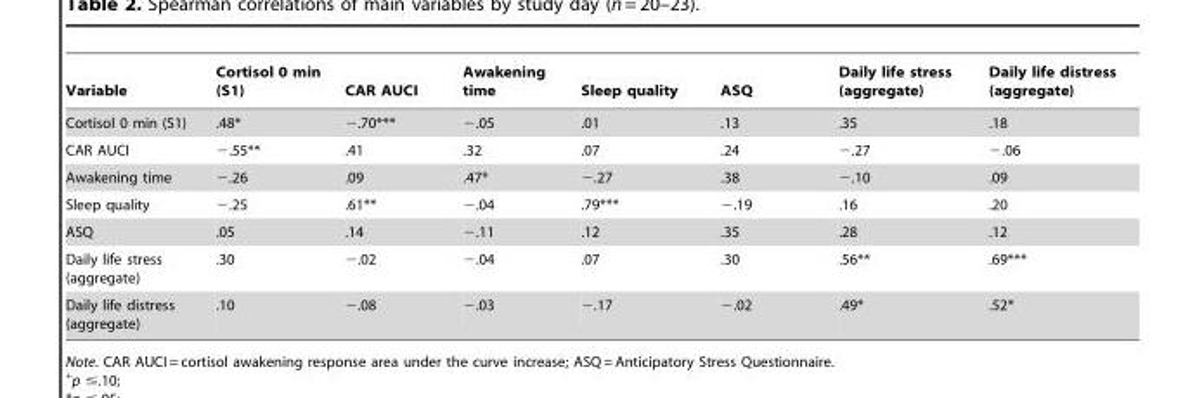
<table><thead><tr><td>Variable</td><td>Cortisol 0 min (S1)</td><td>CAR AUCI</td><td>Awakening time</td><td>Sleep quality</td><td>ASQ</td><td>Daily life stress (aggregate)</td><td>Daily life distress (aggregate)</td></tr></thead><tbody><tr><td>Cortisol 0 min (S1)</td><td>.48*</td><td>−.70***</td><td>−.05</td><td>.01</td><td>.13</td><td>.35</td><td>.18</td></tr><tr><td>CAR AUCI</td><td>−.55**</td><td>.41</td><td>.32</td><td>.07</td><td>.24</td><td>−.27</td><td>−.06</td></tr><tr><td>Awakening time</td><td>−.26</td><td>.09</td><td>.47*</td><td>−.27</td><td>.38</td><td>−.10</td><td>.09</td></tr><tr><td>Sleep quality</td><td>−.25</td><td>.61**</td><td>−.04</td><td>.79***</td><td>−.19</td><td>.16</td><td>.20</td></tr><tr><td>ASQ</td><td>.05</td><td>.14</td><td>−.11</td><td>.12</td><td>.35</td><td>.28</td><td>.12</td></tr><tr><td>Daily life stress (aggregate)</td><td>.30</td><td>−.02</td><td>−.04</td><td>.07</td><td>.30</td><td>.56**</td><td>.69***</td></tr><tr><td>Daily life distress (aggregate)</td><td>.10</td><td>−.08</td><td>−.03</td><td>−.17</td><td>−.02</td><td>.49*</td><td>.52*</td></tr></tbody></table>